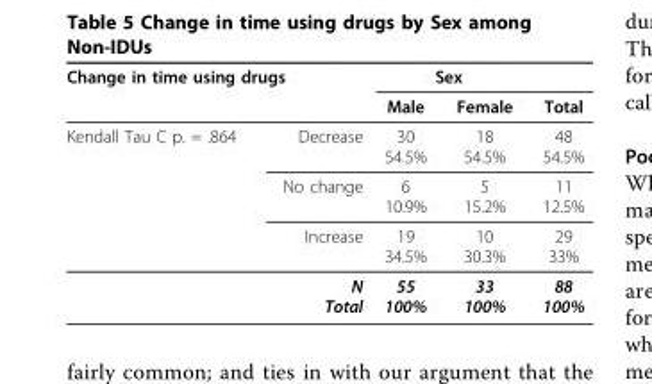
<table><thead><tr><td colspan="2">Change in time using drugs</td><td colspan="2">Sex</td><td rowspan="2">Total</td></tr><tr><td></td><td></td><td>Male</td><td>Female</td></tr></thead><tbody><tr><td rowspan="4">Kendall Tau C p. = .864</td><td>Decrease</td><td>30 54.5%</td><td>18 54.5%</td><td>48 54.5%</td></tr><tr><td>No change</td><td>6 10.9%</td><td>5 15.2%</td><td>11 12.5%</td></tr><tr><td>Increase</td><td>19 34.5%</td><td>10 30.3%</td><td>29 33%</td></tr><tr><td>N Total</td><td>55 100%</td><td>33 100%</td><td>88 100%</td></tr></tbody></table>